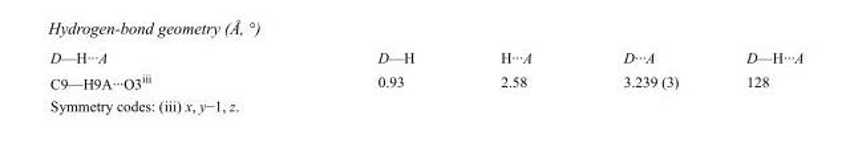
<table><tbody><tr><td>D—H···A</td><td>D—H</td><td>H···A</td><td>D···A</td><td>D—H···A</td></tr><tr><td>C9—H9A···O3<sup>iii</sup></td><td>0.93</td><td>2.58</td><td>3.239 (3)</td><td>128</td></tr></tbody></table>